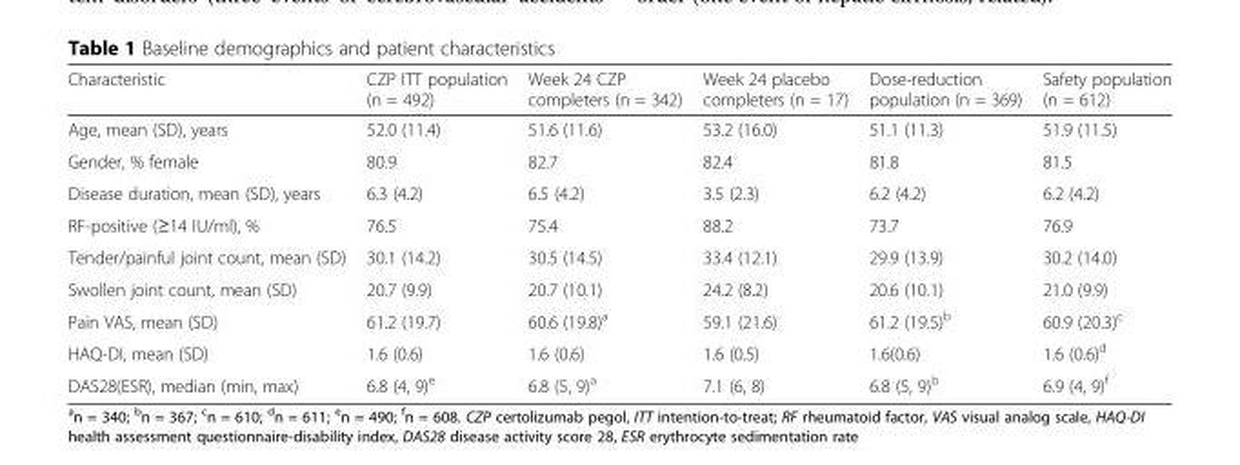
<table><thead><tr><td>Characteristic</td><td>CZP ITT population (n = 492)</td><td>Week 24 CZP completers (n = 342)</td><td>Week 24 placebo completers (n = 17)</td><td>Dose-reduction population (n = 369)</td><td>Safety population (n = 612)</td></tr></thead><tbody><tr><td>Age, mean (SD), years</td><td>52.0 (11.4)</td><td>51.6 (11.6)</td><td>53.2 (16.0)</td><td>51.1 (11.3)</td><td>51.9 (11.5)</td></tr><tr><td>Gender, % female</td><td>80.9</td><td>82.7</td><td>82.4</td><td>81.8</td><td>81.5</td></tr><tr><td>Disease duration, mean (SD), years</td><td>6.3 (4.2)</td><td>6.5 (4.2)</td><td>3.5 (2.3)</td><td>6.2 (4.2)</td><td>6.2 (4.2)</td></tr><tr><td>RF-positive (≥14 IU/ml), %</td><td>76.5</td><td>75.4</td><td>88.2</td><td>73.7</td><td>76.9</td></tr><tr><td>Tender/painful joint count, mean (SD)</td><td>30.1 (14.2)</td><td>30.5 (14.5)</td><td>33.4 (12.1)</td><td>29.9 (13.9)</td><td>30.2 (14.0)</td></tr><tr><td>Swollen joint count, mean (SD)</td><td>20.7 (9.9)</td><td>20.7 (10.1)</td><td>24.2 (8.2)</td><td>20.6 (10.1)</td><td>21.0 (9.9)</td></tr><tr><td>Pain VAS, mean (SD)</td><td>61.2 (19.7)</td><td>60.6 (19.8)<sup>a</sup></td><td>59.1 (21.6)</td><td>61.2 (19.5)<sup>b</sup></td><td>60.9 (20.3)<sup>c</sup></td></tr><tr><td>HAQ-DI, mean (SD)</td><td>1.6 (0.6)</td><td>1.6 (0.6)</td><td>1.6 (0.5)</td><td>1.6(0.6)</td><td>1.6 (0.6)<sup>d</sup></td></tr><tr><td>DAS28(ESR), median (min, max)</td><td>6.8 (4, 9)<sup>e</sup></td><td>6.8 (5, 9)<sup>a</sup></td><td>7.1 (6, 8)</td><td>6.8 (5, 9)<sup>b</sup></td><td>6.9 (4, 9)<sup>f</sup></td></tr></tbody></table>